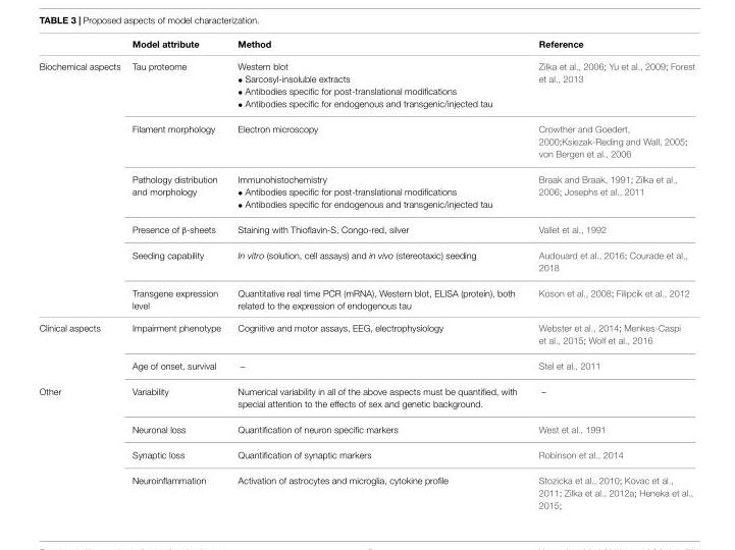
<table><thead><tr><td></td><td>Model attribute</td><td>Method</td><td>Reference</td></tr></thead><tbody><tr><td rowspan="6">Biochemical aspects</td><td>Tau proteome</td><td>Western blot • Sarcosyl-insoluble extracts • Antibodies specific for post-translational modifications • Antibodies specific for endogenous and transgenic/injected tau</td><td>Zilka et al., 2006; Yu et al., 2009; Forest et al., 2013</td></tr><tr><td>Filament morphology</td><td>Electron microscopy</td><td>Crowther and Goedert, 2000;Ksiezak-Reding and Wall, 2005; von Bergen et al., 2006</td></tr><tr><td>Pathology distribution and morphology</td><td>Immunohistochemistry • Antibodies specific for post-translational modifications • Antibodies specific for endogenous and transgenic/injected tau</td><td>Braak and Braak, 1991; Zilka et al., 2006; Josephs et al., 2011</td></tr><tr><td>Presence of β-sheets</td><td>Staining with Thioflavin-S, Congo-red, silver</td><td>Vallet et al., 1992</td></tr><tr><td>Seeding capability</td><td>In vitro (solution, cell assays) and in vivo (stereotaxic) seeding</td><td>Audouard et al., 2016; Courade et al., 2018</td></tr><tr><td>Transgene expression level</td><td>Quantitative real time PCR (mRNA), Western blot, ELISA (protein), both related to the expression of endogenous tau</td><td>Koson et al., 2008; Filipcik et al., 2012</td></tr><tr><td rowspan="2">Clinical aspects</td><td>Impairment phenotype</td><td>Cognitive and motor assays, EEG, electrophysiology</td><td>Webster et al., 2014; Menkes-Caspi et al., 2015; Wolf et al., 2016</td></tr><tr><td>Age of onset, survival</td><td>–</td><td>Stel et al., 2011</td></tr><tr><td rowspan="4">Other</td><td>Variability</td><td>Numerical variability in all of the above aspects must be quantified, with special attention to the effects of sex and genetic background.</td><td>–</td></tr><tr><td>Neuronal loss</td><td>Quantification of neuron specific markers</td><td>West et al., 1991</td></tr><tr><td>Synaptic loss</td><td>Quantification of synaptic markers</td><td>Robinson et al., 2014</td></tr><tr><td>Neuroinflammation</td><td>Activation of astrocytes and microglia, cytokine profile</td><td>Stozicka et al., 2010; Kovac et al., 2011; Zilka et al., 2012a; Heneka et al., 2015;</td></tr></tbody></table>